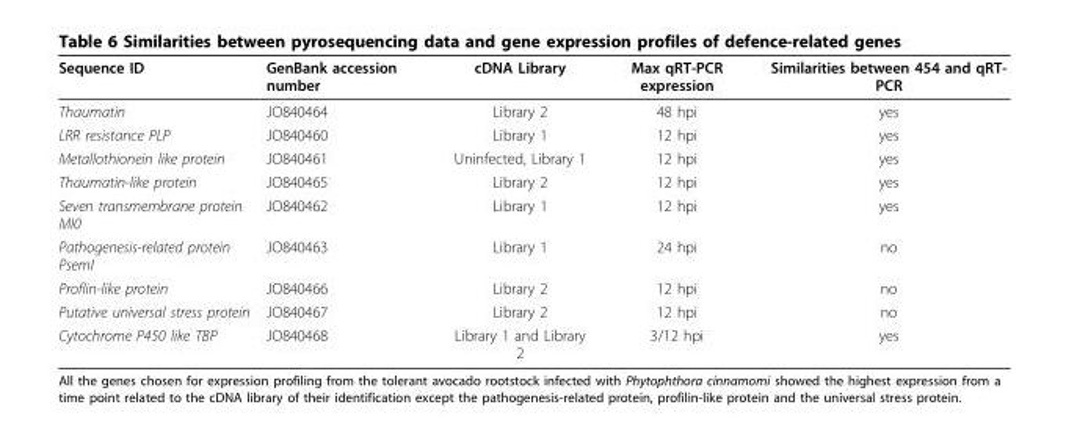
<table><thead><tr><td>Sequence ID</td><td>GenBank accession number</td><td>cDNA Library</td><td>Max qRT-PCR expression</td><td>Similarities between 454 and qRT- PCR</td></tr></thead><tbody><tr><td>Thaumatin</td><td>JO840464</td><td>Library 2</td><td>48 hpi</td><td>yes</td></tr><tr><td>LRR resistance PLP</td><td>JO840460</td><td>Library 1</td><td>12 hpi</td><td>yes</td></tr><tr><td>Metallothionein like protein</td><td>JO840461</td><td>Uninfected, Library 1</td><td>12 hpi</td><td>yes</td></tr><tr><td>Thaumatin-like protein</td><td>JO840465</td><td>Library 2</td><td>12 hpi</td><td>yes</td></tr><tr><td>Seven transmembrane protein MI0</td><td>JO840462</td><td>Library 1</td><td>12 hpi</td><td>yes</td></tr><tr><td>Pathogenesis-related protein PsemI</td><td>JO840463</td><td>Library 1</td><td>24 hpi</td><td>no</td></tr><tr><td>Proflin-like protein</td><td>JO840466</td><td>Library 2</td><td>12 hpi</td><td>no</td></tr><tr><td>Putative universal stress protein</td><td>JO840467</td><td>Library 2</td><td>12 hpi</td><td>no</td></tr><tr><td>Cytochrome P450 like TBP</td><td>JO840468</td><td>Library 1 and Library 2</td><td>3/12 hpi</td><td>yes</td></tr></tbody></table>